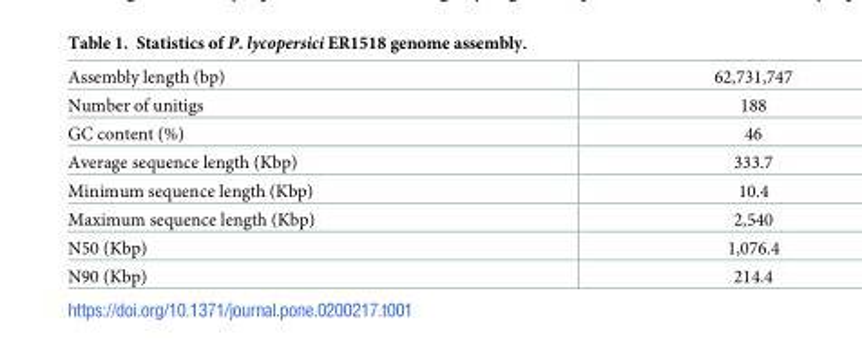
<table><tbody><tr><td>Assembly length (bp)</td><td>62,731,747</td></tr><tr><td>Number of unitigs</td><td>188</td></tr><tr><td>GC content (%)</td><td>46</td></tr><tr><td>Average sequence length (Kbp)</td><td>333.7</td></tr><tr><td>Minimum sequence length (Kbp)</td><td>10.4</td></tr><tr><td>Maximum sequence length (Kbp)</td><td>2,540</td></tr><tr><td>N50 (Kbp)</td><td>1,076.4</td></tr><tr><td>N90 (Kbp)</td><td>214.4</td></tr></tbody></table>